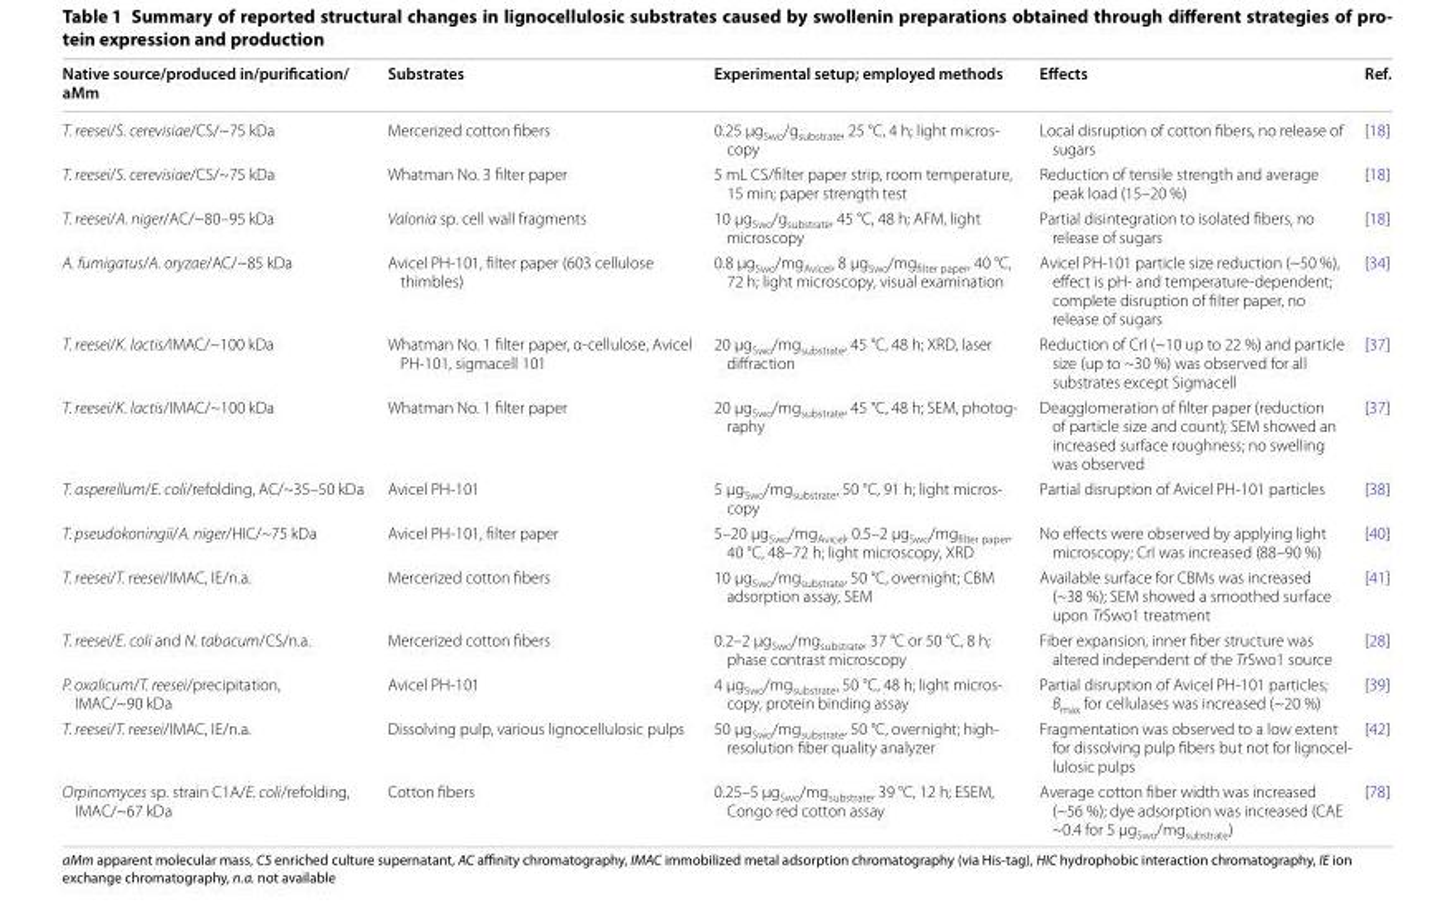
<table><thead><tr><td>Native source/produced in/purification/ aMm</td><td>Substrates</td><td>Experimental setup; employed methods</td><td>Effects</td><td>Ref.</td></tr></thead><tbody><tr><td>T. reesei/S. cerevisiae/CS/~75 kDa</td><td>Mercerized cotton fibers</td><td>0.25 µgSwo/gsubstrate, 25 °C, 4 h; light micros- copy</td><td>Local disruption of cotton fibers, no release of sugars</td><td>[18]</td></tr><tr><td>T. reesei/S. cerevisiae/CS/~75 kDa</td><td>Whatman No. 3 filter paper</td><td>5 mL CS/filter paper strip, room temperature, 15 min; paper strength test</td><td>Reduction of tensile strength and average peak load (15–20 %)</td><td>[18]</td></tr><tr><td>T. reesei/A. niger/AC/~80–95 kDa</td><td>Valonia sp. cell wall fragments</td><td>10 µg<sub>Swo</sub>/g<sub>substrate</sub>, 45 °C, 48 h; AFM, light microscopy</td><td>Partial disintegration to isolated fibers, no release of sugars</td><td>[18]</td></tr><tr><td>A. fumigatus/A. oryzae/AC/~85 kDa</td><td>Avicel PH-101, filter paper (603 cellulose thimbles)</td><td>0.8 µg<sub>Swo</sub>/mg<sub>Avicel</sub>, 8 µg<sub>Swo</sub>/mg<sub>filter paper</sub>, 40 °C, 72 h; light microscopy, visual examination</td><td>Avicel PH-101 particle size reduction (~50 %), effect is pH- and temperature-dependent; complete disruption of filter paper, no release of sugars</td><td>[34]</td></tr><tr><td>T. reesei/K. lactis/IMAC/~100 kDa</td><td>Whatman No. 1 filter paper, α-cellulose, Avicel PH-101, sigmacell 101</td><td>20 µg<sub>Swo</sub>/mg<sub>substrate</sub>, 45 °C, 48 h; XRD, laser diffraction</td><td>Reduction of CrI (~10 up to 22 %) and particle size (up to ~30 %) was observed for all substrates except Sigmacell</td><td>[37]</td></tr><tr><td>T. reesei/K. lactis/IMAC/~100 kDa</td><td>Whatman No. 1 filter paper</td><td>20 µgSwo/mgsubstrate, 45 °C, 48 h; SEM, photog- raphy</td><td>Deagglomeration of filter paper (reduction of particle size and count); SEM showed an increased surface roughness; no swelling was observed</td><td>[37]</td></tr><tr><td>T. asperellum/E. coli/refolding, AC/~35–50 kDa</td><td>Avicel PH-101</td><td>5 µgSwo/mgsubstrate, 50 °C, 91 h; light micros- copy</td><td>Partial disruption of Avicel PH-101 particles</td><td>[38]</td></tr><tr><td>T. pseudokoningii/A. niger/HIC/~75 kDa</td><td>Avicel PH-101, filter paper</td><td>5–20 µg<sub>Swo</sub>/mg<sub>Avicel</sub>, 0.5–2 µg<sub>Swo</sub>/mg<sub>filter paper</sub>, 40 °C, 48–72 h; light microscopy, XRD</td><td>No effects were observed by applying light microscopy; CrI was increased (88–90 %)</td><td>[40]</td></tr><tr><td>T. reesei/T. reesei/IMAC, IE/n.a.</td><td>Mercerized cotton fibers</td><td>10 µg<sub>Swo</sub>/mg<sub>substrate</sub>, 50 °C, overnight; CBM adsorption assay, SEM</td><td>Available surface for CBMs was increased (~38 %); SEM showed a smoothed surface upon TrSwo1 treatment</td><td>[41]</td></tr><tr><td>T. reesei/E. coli and N. tabacum/CS/n.a.</td><td>Mercerized cotton fibers</td><td>0.2–2 µg<sub>Swo</sub>/mg<sub>substrate</sub>, 37 °C or 50 °C, 8 h; phase contrast microscopy</td><td>Fiber expansion, inner fiber structure was altered independent of the TrSwo1 source</td><td>[28]</td></tr><tr><td>P. oxalicum/T. reesei/precipitation, IMAC/~90 kDa</td><td>Avicel PH-101</td><td>4 µgSwo/mgsubstrate, 50 °C, 48 h; light micros- copy, protein binding assay</td><td>Partial disruption of Avicel PH-101 particles; B<sub>max</sub> for cellulases was increased (~20 %)</td><td>[39]</td></tr><tr><td>T. reesei/T. reesei/IMAC, IE/n.a.</td><td>Dissolving pulp, various lignocellulosic pulps</td><td>50 µg<sub>Swo</sub>/mg<sub>substrate</sub>, 50 °C, overnight; high- resolution fiber quality analyzer</td><td>Fragmentation was observed to a low extent for dissolving pulp fibers but not for lignocel- lulosic pulps</td><td>[42]</td></tr><tr><td>Orpinomyces sp. strain C1A/E. coli/refolding, IMAC/~67 kDa</td><td>Cotton fibers</td><td>0.25–5 µg<sub>Swo</sub>/mg<sub>substrate</sub>, 39 °C, 12 h; ESEM, Congo red cotton assay</td><td>Average cotton fiber width was increased (~56 %); dye adsorption was increased (CAE ~0.4 for 5 µg<sub>Swo</sub>/mg<sub>substrate</sub>)</td><td>[78]</td></tr></tbody></table>